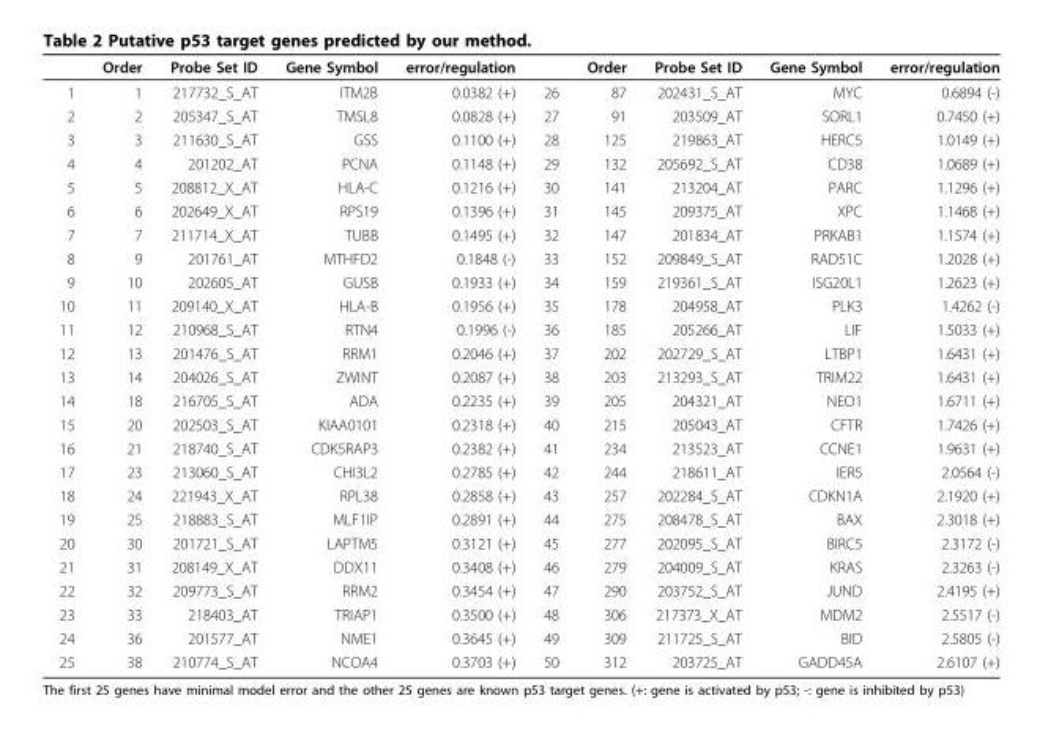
<table><thead><tr><td></td><td>Order</td><td>Probe Set ID</td><td>Gene Symbol</td><td>error/regulation</td><td></td><td>Order</td><td>Probe Set ID</td><td>Gene Symbol</td><td>error/regulation</td></tr></thead><tbody><tr><td>1</td><td>1</td><td>217732_S_AT</td><td>ITM2B</td><td>0.0382 (+)</td><td>26</td><td>87</td><td>202431_S_AT</td><td>MYC</td><td>0.6894 (-)</td></tr><tr><td>2</td><td>2</td><td>205347_S_AT</td><td>TMSL8</td><td>0.0828 (+)</td><td>27</td><td>91</td><td>203509_AT</td><td>SORL1</td><td>0.7450 (+)</td></tr><tr><td>3</td><td>3</td><td>211630_S_AT</td><td>GSS</td><td>0.1100 (+)</td><td>28</td><td>125</td><td>219863_AT</td><td>HERC5</td><td>1.0149 (+)</td></tr><tr><td>4</td><td>4</td><td>201202_AT</td><td>PCNA</td><td>0.1148 (+)</td><td>29</td><td>132</td><td>205692_S_AT</td><td>CD38</td><td>1.0689 (+)</td></tr><tr><td>5</td><td>5</td><td>208812_X_AT</td><td>HLA-C</td><td>0.1216 (+)</td><td>30</td><td>141</td><td>213204_AT</td><td>PARC</td><td>1.1296 (+)</td></tr><tr><td>6</td><td>6</td><td>202649_X_AT</td><td>RPS19</td><td>0.1396 (+)</td><td>31</td><td>145</td><td>209375_AT</td><td>XPC</td><td>1.1468 (+)</td></tr><tr><td>7</td><td>7</td><td>211714_X_AT</td><td>TUBB</td><td>0.1495 (+)</td><td>32</td><td>147</td><td>201834_AT</td><td>PRKAB1</td><td>1.1574 (+)</td></tr><tr><td>8</td><td>9</td><td>201761_AT</td><td>MTHFD2</td><td>0.1848 (-)</td><td>33</td><td>152</td><td>209849_S_AT</td><td>RAD51C</td><td>1.2028 (+)</td></tr><tr><td>9</td><td>10</td><td>202605_AT</td><td>GUSB</td><td>0.1933 (+)</td><td>34</td><td>159</td><td>219361_S_AT</td><td>ISG20L1</td><td>1.2623 (+)</td></tr><tr><td>10</td><td>11</td><td>209140_X_AT</td><td>HLA-B</td><td>0.1956 (+)</td><td>35</td><td>178</td><td>204958_AT</td><td>PLK3</td><td>1.4262 (-)</td></tr><tr><td>11</td><td>12</td><td>210968_S_AT</td><td>RTN4</td><td>0.1996 (-)</td><td>36</td><td>185</td><td>205266_AT</td><td>LIF</td><td>1.5033 (+)</td></tr><tr><td>12</td><td>13</td><td>201476_S_AT</td><td>RRM1</td><td>0.2046 (+)</td><td>37</td><td>202</td><td>202729_S_AT</td><td>LTBP1</td><td>1.6431 (+)</td></tr><tr><td>13</td><td>14</td><td>204026_S_AT</td><td>ZWINT</td><td>0.2087 (+)</td><td>38</td><td>203</td><td>213293_S_AT</td><td>TRIM22</td><td>1.6431 (+)</td></tr><tr><td>14</td><td>18</td><td>216705_S_AT</td><td>ADA</td><td>0.2235 (+)</td><td>39</td><td>205</td><td>204321_AT</td><td>NEO1</td><td>1.6711 (+)</td></tr><tr><td>15</td><td>20</td><td>202503_S_AT</td><td>KIAA0101</td><td>0.2318 (+)</td><td>40</td><td>215</td><td>205043_AT</td><td>CFTR</td><td>1.7426 (+)</td></tr><tr><td>16</td><td>21</td><td>218740_S_AT</td><td>CDK5RAP3</td><td>0.2382 (+)</td><td>41</td><td>234</td><td>213523_AT</td><td>CCNE1</td><td>1.9631 (+)</td></tr><tr><td>17</td><td>23</td><td>213060_S_AT</td><td>CHI3L2</td><td>0.2785 (+)</td><td>42</td><td>244</td><td>218611_AT</td><td>IER5</td><td>2.0564 (-)</td></tr><tr><td>18</td><td>24</td><td>221943_X_AT</td><td>RPL38</td><td>0.2858 (+)</td><td>43</td><td>257</td><td>202284_S_AT</td><td>CDKN1A</td><td>2.1920 (+)</td></tr><tr><td>19</td><td>25</td><td>218883_S_AT</td><td>MLF1IP</td><td>0.2891 (+)</td><td>44</td><td>275</td><td>208478_S_AT</td><td>BAX</td><td>2.3018 (+)</td></tr><tr><td>20</td><td>30</td><td>201721_S_AT</td><td>LAPTM5</td><td>0.3121 (+)</td><td>45</td><td>277</td><td>202095_S_AT</td><td>BIRC5</td><td>2.3172 (-)</td></tr><tr><td>21</td><td>31</td><td>208149_X_AT</td><td>DDX11</td><td>0.3408 (+)</td><td>46</td><td>279</td><td>204009_S_AT</td><td>KRAS</td><td>2.3263 (-)</td></tr><tr><td>22</td><td>32</td><td>209773_S_AT</td><td>RRM2</td><td>0.3454 (+)</td><td>47</td><td>290</td><td>203752_S_AT</td><td>JUND</td><td>2.4195 (+)</td></tr><tr><td>23</td><td>33</td><td>218403_AT</td><td>TRIAP1</td><td>0.3500 (+)</td><td>48</td><td>306</td><td>217373_X_AT</td><td>MDM2</td><td>2.5517 (-)</td></tr><tr><td>24</td><td>36</td><td>201577_AT</td><td>NME1</td><td>0.3645 (+)</td><td>49</td><td>309</td><td>211725_S_AT</td><td>BID</td><td>2.5805 (-)</td></tr><tr><td>25</td><td>38</td><td>210774_S_AT</td><td>NCOA4</td><td>0.3703 (+)</td><td>50</td><td>312</td><td>203725_AT</td><td>GADD45A</td><td>2.6107 (+)</td></tr></tbody></table>